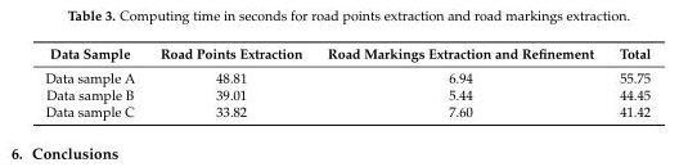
<table><thead><tr><td>Data Sample</td><td>Road Points Extraction</td><td>Road Markings Extraction and Refinement</td><td>Total</td></tr></thead><tbody><tr><td>Data sample A</td><td>48.81</td><td>6.94</td><td>55.75</td></tr><tr><td>Data sample B</td><td>39.01</td><td>5.44</td><td>44.45</td></tr><tr><td>Data sample C</td><td>33.82</td><td>7.60</td><td>41.42</td></tr></tbody></table>